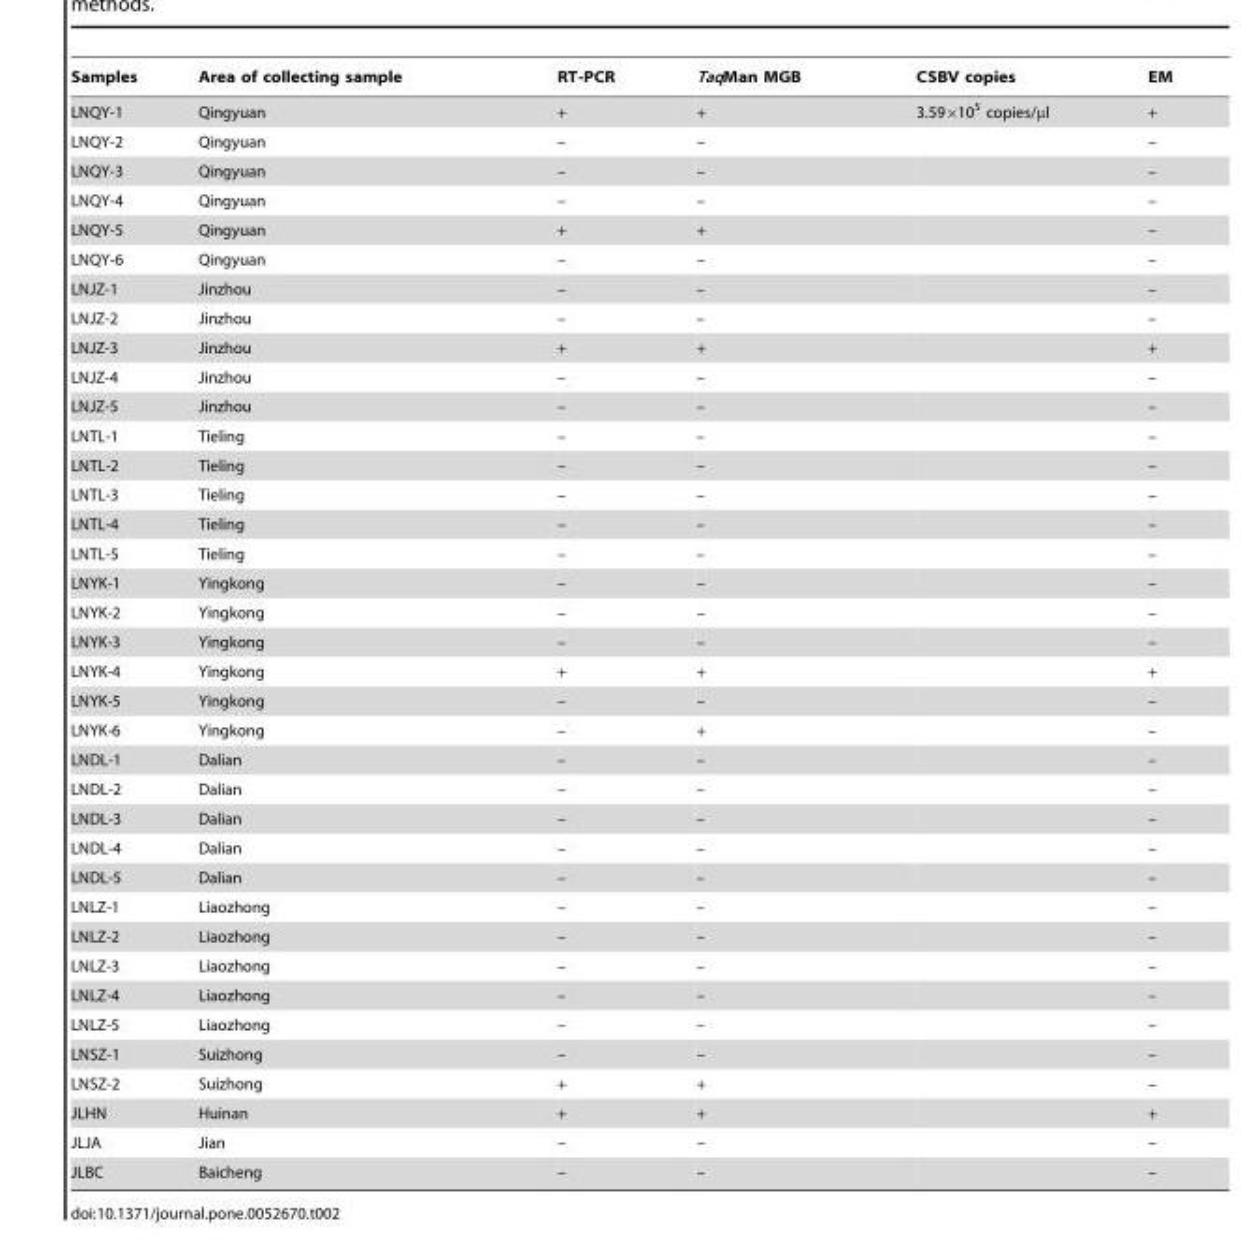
<table><thead><tr><td>Samples</td><td>Area of collecting sample</td><td>RT-PCR</td><td>TaqMan MGB</td><td>CSBV copies</td><td>EM</td></tr></thead><tbody><tr><td>LNQY-1</td><td>Qingyuan</td><td>+</td><td>+</td><td>3.59×10<sup>5</sup> copies/μl</td><td>+</td></tr><tr><td>LNQY-2</td><td>Qingyuan</td><td>–</td><td>–</td><td></td><td>–</td></tr><tr><td>LNQY-3</td><td>Qingyuan</td><td>–</td><td>–</td><td></td><td>–</td></tr><tr><td>LNQY-4</td><td>Qingyuan</td><td>–</td><td>–</td><td></td><td>–</td></tr><tr><td>LNQY-5</td><td>Qingyuan</td><td>+</td><td>+</td><td></td><td>–</td></tr><tr><td>LNQY-6</td><td>Qingyuan</td><td>–</td><td>–</td><td></td><td>–</td></tr><tr><td>LNJZ-1</td><td>Jinzhou</td><td>–</td><td>–</td><td></td><td>–</td></tr><tr><td>LNJZ-2</td><td>Jinzhou</td><td>–</td><td>–</td><td></td><td>–</td></tr><tr><td>LNJZ-3</td><td>Jinzhou</td><td>+</td><td>+</td><td></td><td>+</td></tr><tr><td>LNJZ-4</td><td>Jinzhou</td><td>–</td><td>–</td><td></td><td>–</td></tr><tr><td>LNJZ-5</td><td>Jinzhou</td><td>–</td><td>–</td><td></td><td>–</td></tr><tr><td>LNTL-1</td><td>Tieling</td><td>–</td><td>–</td><td></td><td>–</td></tr><tr><td>LNTL-2</td><td>Tieling</td><td>–</td><td>–</td><td></td><td>–</td></tr><tr><td>LNTL-3</td><td>Tieling</td><td>–</td><td>–</td><td></td><td>–</td></tr><tr><td>LNTL-4</td><td>Tieling</td><td>–</td><td>–</td><td></td><td>–</td></tr><tr><td>LNTL-5</td><td>Tieling</td><td>–</td><td>–</td><td></td><td>–</td></tr><tr><td>LNYK-1</td><td>Yingkong</td><td>–</td><td>–</td><td></td><td>–</td></tr><tr><td>LNYK-2</td><td>Yingkong</td><td>–</td><td>–</td><td></td><td>–</td></tr><tr><td>LNYK-3</td><td>Yingkong</td><td>–</td><td>–</td><td></td><td>–</td></tr><tr><td>LNYK-4</td><td>Yingkong</td><td>+</td><td>+</td><td></td><td>+</td></tr><tr><td>LNYK-5</td><td>Yingkong</td><td>–</td><td>–</td><td></td><td>–</td></tr><tr><td>LNYK-6</td><td>Yingkong</td><td>–</td><td>+</td><td></td><td>–</td></tr><tr><td>LNDL-1</td><td>Dalian</td><td>–</td><td>–</td><td></td><td>–</td></tr><tr><td>LNDL-2</td><td>Dalian</td><td>–</td><td>–</td><td></td><td>–</td></tr><tr><td>LNDL-3</td><td>Dalian</td><td>–</td><td>–</td><td></td><td>–</td></tr><tr><td>LNDL-4</td><td>Dalian</td><td>–</td><td>–</td><td></td><td>–</td></tr><tr><td>LNDL-5</td><td>Dalian</td><td>–</td><td>–</td><td></td><td>–</td></tr><tr><td>LNLZ-1</td><td>Liaozhong</td><td>–</td><td>–</td><td></td><td>–</td></tr><tr><td>LNLZ-2</td><td>Liaozhong</td><td>–</td><td>–</td><td></td><td>–</td></tr><tr><td>LNLZ-3</td><td>Liaozhong</td><td>–</td><td>–</td><td></td><td>–</td></tr><tr><td>LNLZ-4</td><td>Liaozhong</td><td>–</td><td>–</td><td></td><td>–</td></tr><tr><td>LNLZ-5</td><td>Liaozhong</td><td>–</td><td>–</td><td></td><td>–</td></tr><tr><td>LNSZ-1</td><td>Suizhong</td><td>–</td><td>–</td><td></td><td>–</td></tr><tr><td>LNSZ-2</td><td>Suizhong</td><td>+</td><td>+</td><td></td><td>–</td></tr><tr><td>JLHN</td><td>Huinan</td><td>+</td><td>+</td><td></td><td>+</td></tr><tr><td>JLJA</td><td>Jian</td><td>–</td><td>–</td><td></td><td>–</td></tr><tr><td>JLBC</td><td>Baicheng</td><td>–</td><td>–</td><td></td><td>–</td></tr></tbody></table>